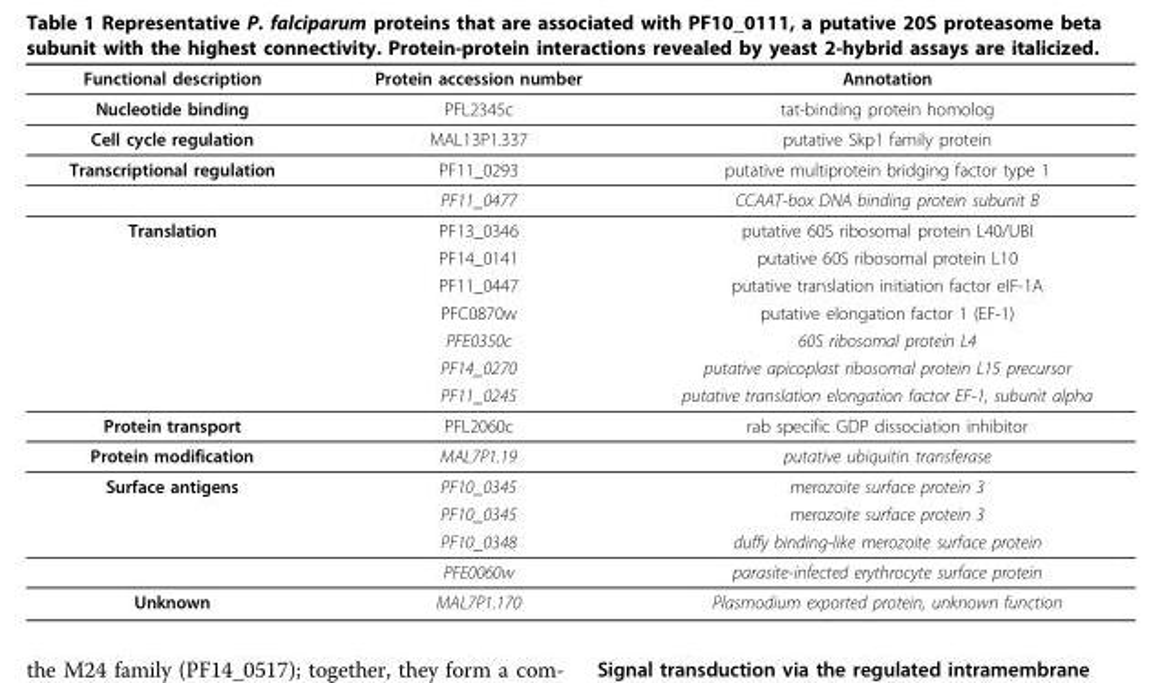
<table><thead><tr><td>Functional description</td><td>Protein accession number</td><td>Annotation</td></tr></thead><tbody><tr><td>Nucleotide binding</td><td>PFL2345c</td><td>tat-binding protein homolog</td></tr><tr><td>Cell cycle regulation</td><td>MAL13P1.337</td><td>putative Skp1 family protein</td></tr><tr><td rowspan="2">Transcriptional regulation</td><td>PF11_0293</td><td>putative multiprotein bridging factor type 1</td></tr><tr><td>PF11_0477</td><td>CCAAT-box DNA binding protein subunit B</td></tr><tr><td rowspan="7">Translation</td><td>PF13_0346</td><td>putative 60S ribosomal protein L40/UBI</td></tr><tr><td>PF14_0141</td><td>putative 60S ribosomal protein L10</td></tr><tr><td>PF11_0447</td><td>putative translation initiation factor eIF-1A</td></tr><tr><td>PFC0870w</td><td>putative elongation factor 1 (EF-1)</td></tr><tr><td>PFE0350c</td><td>60S ribosomal protein L4</td></tr><tr><td>PF14_0270</td><td>putative apicoplast ribosomal protein L15 precursor</td></tr><tr><td>PF11_0245</td><td>putative translation elongation factor EF-1, subunit alpha</td></tr><tr><td>Protein transport</td><td>PFL2060c</td><td>rab specific GDP dissociation inhibitor</td></tr><tr><td>Protein modification</td><td>MAL7P1.19</td><td>putative ubiquitin transferase</td></tr><tr><td rowspan="4">Surface antigens</td><td>PF10_0345</td><td>merozoite surface protein 3</td></tr><tr><td>PF10_0345</td><td>merozoite surface protein 3</td></tr><tr><td>PF10_0348</td><td>duffy binding-like merozoite surface protein</td></tr><tr><td>PFE0060w</td><td>parasite-infected erythrocyte surface protein</td></tr><tr><td>Unknown</td><td>MAL7P1.170</td><td>Plasmodium exported protein, unknown function</td></tr></tbody></table>